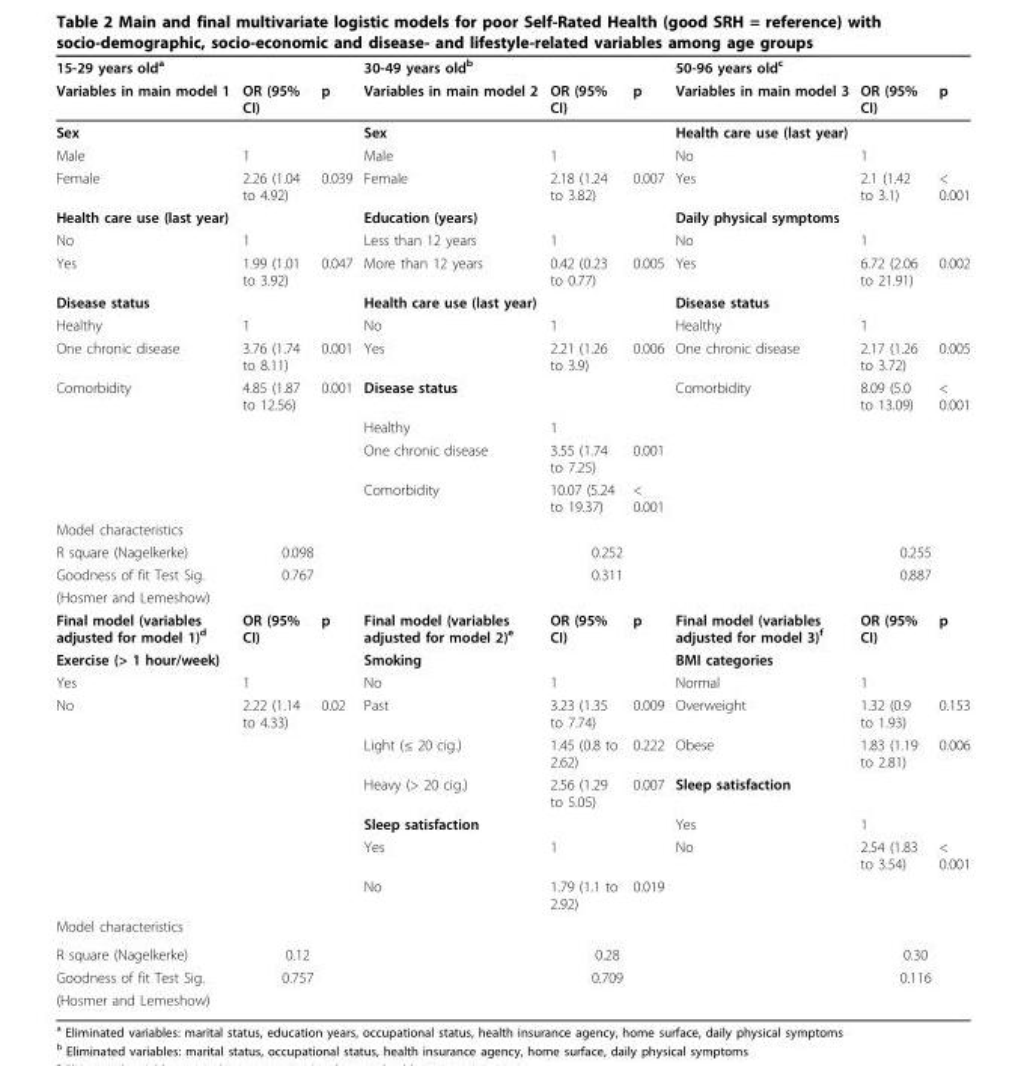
<table><thead><tr><td colspan="3">15-29 years old<sup>a</sup></td><td colspan="3">30-49 years old<sup>b</sup></td><td colspan="3">50-96 years old<sup>c</sup></td></tr><tr><td>Variables in main model 1</td><td>OR (95% CI)</td><td>p</td><td>Variables in main model 2</td><td>OR (95% CI)</td><td>p</td><td>Variables in main model 3</td><td>OR (95% CI)</td><td>p</td></tr></thead><tbody><tr><td>Sex</td><td></td><td></td><td>Sex</td><td></td><td></td><td>Health care use (last year)</td><td></td><td></td></tr><tr><td>Male</td><td>1</td><td></td><td>Male</td><td>1</td><td></td><td>No</td><td>1</td><td></td></tr><tr><td>Female</td><td>2.26 (1.04 to 4.92)</td><td>0.039</td><td>Female</td><td>2.18 (1.24 to 3.82)</td><td>0.007</td><td>Yes</td><td>2.1 (1.42 to 3.1)</td><td>&lt; 0.001</td></tr><tr><td>Health care use (last year)</td><td></td><td></td><td>Education (years)</td><td></td><td></td><td>Daily physical symptoms</td><td></td><td></td></tr><tr><td>No</td><td>1</td><td></td><td>Less than 12 years</td><td>1</td><td></td><td>No</td><td>1</td><td></td></tr><tr><td>Yes</td><td>1.99 (1.01 to 3.92)</td><td>0.047</td><td>More than 12 years</td><td>0.42 (0.23 to 0.77)</td><td>0.005</td><td>Yes</td><td>6.72 (2.06 to 21.91)</td><td>0.002</td></tr><tr><td>Disease status</td><td></td><td></td><td>Health care use (last year)</td><td></td><td></td><td>Disease status</td><td></td><td></td></tr><tr><td>Healthy</td><td>1</td><td></td><td>No</td><td>1</td><td></td><td>Healthy</td><td>1</td><td></td></tr><tr><td>One chronic disease</td><td>3.76 (1.74 to 8.11)</td><td>0.001</td><td>Yes</td><td>2.21 (1.26 to 3.9)</td><td>0.006</td><td>One chronic disease</td><td>2.17 (1.26 to 3.72)</td><td>0.005</td></tr><tr><td rowspan="4">Comorbidity</td><td>4.85 (1.87 to 12.56)</td><td>0.001</td><td>Disease status</td><td></td><td></td><td>Comorbidity</td><td>8.09 (5.0 to 13.09)</td><td>&lt; 0.001</td></tr><tr><td></td><td></td><td>Healthy</td><td>1</td><td></td><td></td><td></td><td></td></tr><tr><td></td><td></td><td>One chronic disease</td><td>3.55 (1.74 to 7.25)</td><td>0.001</td><td></td><td></td><td></td></tr><tr><td></td><td></td><td>Comorbidity</td><td>10.07 (5.24 to 19.37)</td><td>&lt; 0.001</td><td></td><td></td><td></td></tr><tr><td colspan="9">Model characteristics</td></tr><tr><td>R square (Nagelkerke)</td><td colspan="2">0.098</td><td></td><td colspan="2">0.252</td><td></td><td colspan="2">0.255</td></tr><tr><td>Goodness of fit Test Sig.</td><td colspan="2">0.767</td><td></td><td colspan="2">0.311</td><td></td><td colspan="2">0.887</td></tr><tr><td colspan="9">(Hosmer and Lemeshow)</td></tr><tr><td>Final model (variables adjusted for model 1)<sup>d</sup></td><td>OR (95% CI)</td><td>p</td><td>Final model (variables adjusted for model 2)<sup>e</sup></td><td>OR (95% CI)</td><td>p</td><td>Final model (variables adjusted for model 3)<sup>f</sup></td><td>OR (95% CI)</td><td>p</td></tr><tr><td>Exercise (&gt; 1 hour/week)</td><td></td><td></td><td>Smoking</td><td></td><td></td><td>BMI categories</td><td></td><td></td></tr><tr><td>Yes</td><td>1</td><td></td><td>No</td><td>1</td><td></td><td>Normal</td><td>1</td><td></td></tr><tr><td rowspan="6">No</td><td>2.22 (1.14 to 4.33)</td><td>0.02</td><td>Past</td><td>3.23 (1.35 to 7.74)</td><td>0.009</td><td>Overweight</td><td>1.32 (0.9 to 1.93)</td><td>0.153</td></tr><tr><td></td><td></td><td>Light (≤ 20 cig.)</td><td>1.45 (0.8 to 2.62)</td><td>0.222</td><td>Obese</td><td>1.83 (1.19 to 2.81)</td><td>0.006</td></tr><tr><td></td><td></td><td>Heavy (&gt; 20 cig.)</td><td>2.56 (1.29 to 5.05)</td><td>0.007</td><td>Sleep satisfaction</td><td></td><td></td></tr><tr><td></td><td></td><td>Sleep satisfaction</td><td></td><td></td><td>Yes</td><td>1</td><td></td></tr><tr><td></td><td></td><td>Yes</td><td>1</td><td></td><td>No</td><td>2.54 (1.83 to 3.54)</td><td>&lt; 0.001</td></tr><tr><td></td><td></td><td>No</td><td>1.79 (1.1 to 2.92)</td><td>0.019</td><td></td><td></td><td></td></tr><tr><td colspan="9">Model characteristics</td></tr><tr><td>R square (Nagelkerke)</td><td colspan="2">0.12</td><td></td><td colspan="2">0.28</td><td></td><td colspan="2">0.30</td></tr><tr><td>Goodness of fit Test Sig.</td><td colspan="2">0.757</td><td></td><td colspan="2">0.709</td><td></td><td colspan="2">0.116</td></tr><tr><td>(Hosmer and Lemeshow)</td><td></td><td></td><td></td><td></td><td></td><td colspan="3"></td></tr></tbody></table>